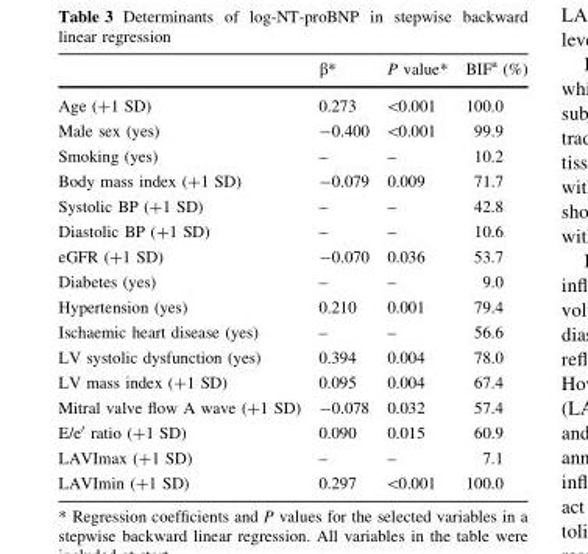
<table><thead><tr><td></td><td>β*</td><td>P value*</td><td>BIF<sup>a</sup> (%)</td></tr></thead><tbody><tr><td>Age (+1 SD)</td><td>0.273</td><td>&lt;0.001</td><td>100.0</td></tr><tr><td>Male sex (yes)</td><td>-0.400</td><td>&lt;0.001</td><td>99.9</td></tr><tr><td>Smoking (yes)</td><td>–</td><td>–</td><td>10.2</td></tr><tr><td>Body mass index (+1 SD)</td><td>-0.079</td><td>0.009</td><td>71.7</td></tr><tr><td>Systolic BP (+1 SD)</td><td>–</td><td>–</td><td>42.8</td></tr><tr><td>Diastolic BP (+1 SD)</td><td>–</td><td>–</td><td>10.6</td></tr><tr><td>eGFR (+1 SD)</td><td>-0.070</td><td>0.036</td><td>53.7</td></tr><tr><td>Diabetes (yes)</td><td>–</td><td>–</td><td>9.0</td></tr><tr><td>Hypertension (yes)</td><td>0.210</td><td>0.001</td><td>79.4</td></tr><tr><td>Ischaemic heart disease (yes)</td><td>–</td><td>–</td><td>56.6</td></tr><tr><td>LV systolic dysfunction (yes)</td><td>0.394</td><td>0.004</td><td>78.0</td></tr><tr><td>LV mass index (+1 SD)</td><td>0.095</td><td>0.004</td><td>67.4</td></tr><tr><td>Mitral valve flow A wave (+1 SD)</td><td>-0.078</td><td>0.032</td><td>57.4</td></tr><tr><td>E/e′ ratio (+1 SD)</td><td>0.090</td><td>0.015</td><td>60.9</td></tr><tr><td>LAVImax (+1 SD)</td><td>–</td><td>–</td><td>7.1</td></tr><tr><td>LAVImin (+1 SD)</td><td>0.297</td><td>&lt;0.001</td><td>100.0</td></tr></tbody></table>